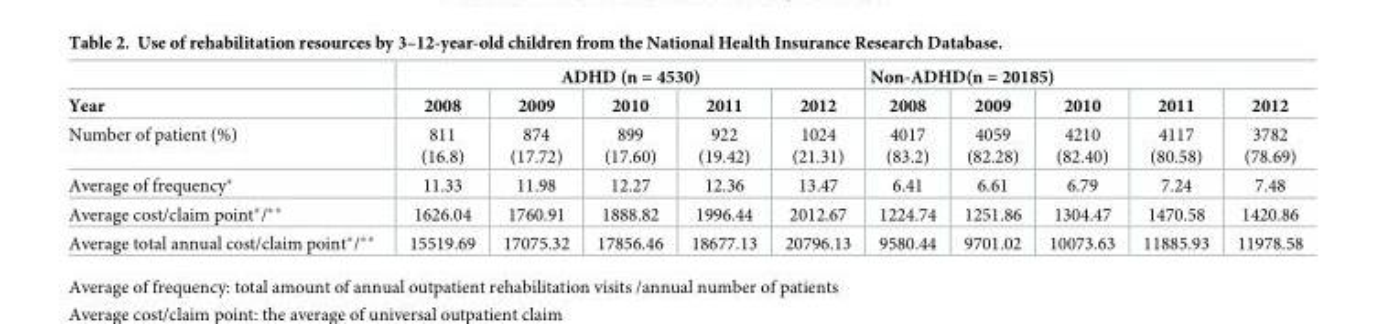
<table><thead><tr><td rowspan="2">Year</td><td colspan="5">ADHD (n = 4530)</td><td colspan="5">Non-ADHD(n = 20185)</td></tr><tr><td>2008</td><td>2009</td><td>2010</td><td>2011</td><td>2012</td><td>2008</td><td>2009</td><td>2010</td><td>2011</td><td>2012</td></tr></thead><tbody><tr><td>Number of patient (%)</td><td>811 (16.8)</td><td>874 (17.72)</td><td>899 (17.60)</td><td>922 (19.42)</td><td>1024 (21.31)</td><td>4017 (83.2)</td><td>4059 (82.28)</td><td>4210 (82.40)</td><td>4117 (80.58)</td><td>3782 (78.69)</td></tr><tr><td>Average of frequency*</td><td>11.33</td><td>11.98</td><td>12.27</td><td>12.36</td><td>13.47</td><td>6.41</td><td>6.61</td><td>6.79</td><td>7.24</td><td>7.48</td></tr><tr><td>Average cost/claim point*/**</td><td>1626.04</td><td>1760.91</td><td>1888.82</td><td>1996.44</td><td>2012.67</td><td>1224.74</td><td>1251.86</td><td>1304.47</td><td>1470.58</td><td>1420.86</td></tr><tr><td>Average total annual cost/claim point*/**</td><td>15519.69</td><td>17075.32</td><td>17856.46</td><td>18677.13</td><td>20796.13</td><td>9580.44</td><td>9701.02</td><td>10073.63</td><td>11885.93</td><td>11978.58</td></tr></tbody></table>